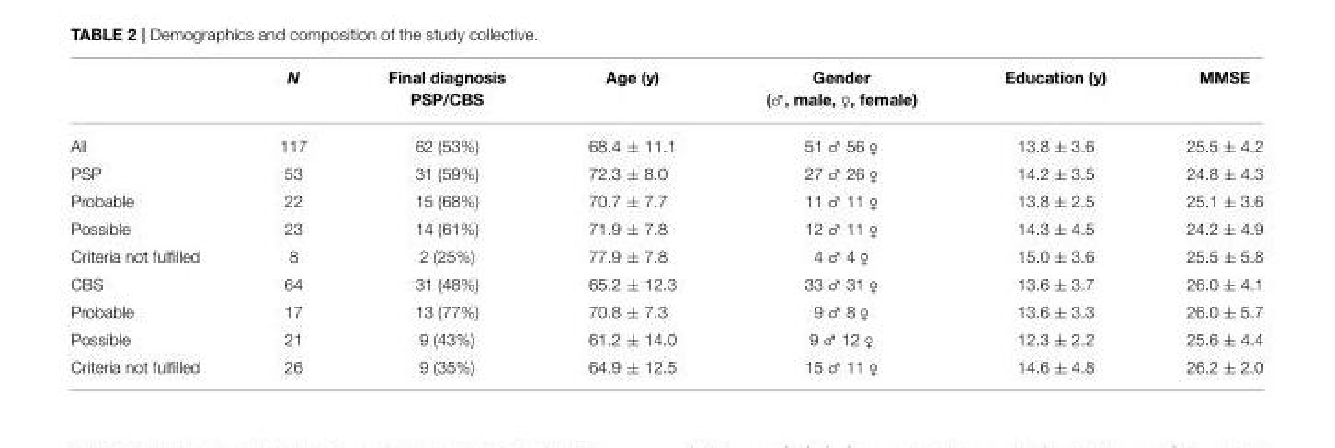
<table><thead><tr><td></td><td>N</td><td>Final diagnosis PSP/CBS</td><td>Age (y)</td><td>Gender (♂, male, ♀, female)</td><td>Education (y)</td><td>MMSE</td></tr></thead><tbody><tr><td>All</td><td>117</td><td>62 (53%)</td><td>68.4 ± 11.1</td><td>51 ♂ 56 ♀</td><td>13.8 ± 3.6</td><td>25.5 ± 4.2</td></tr><tr><td>PSP</td><td>53</td><td>31 (59%)</td><td>72.3 ± 8.0</td><td>27 ♂ 26 ♀</td><td>14.2 ± 3.5</td><td>24.8 ± 4.3</td></tr><tr><td>Probable</td><td>22</td><td>15 (68%)</td><td>70.7 ± 7.7</td><td>11 ♂ 11 ♀</td><td>13.8 ± 2.5</td><td>25.1 ± 3.6</td></tr><tr><td>Possible</td><td>23</td><td>14 (61%)</td><td>71.9 ± 7.8</td><td>12 ♂ 11 ♀</td><td>14.3 ± 4.5</td><td>24.2 ± 4.9</td></tr><tr><td>Criteria not fulfilled</td><td>8</td><td>2 (25%)</td><td>77.9 ± 7.8</td><td>4 ♂ 4 ♀</td><td>15.0 ± 3.6</td><td>25.5 ± 5.8</td></tr><tr><td>CBS</td><td>64</td><td>31 (48%)</td><td>65.2 ± 12.3</td><td>33 ♂ 31 ♀</td><td>13.6 ± 3.7</td><td>26.0 ± 4.1</td></tr><tr><td>Probable</td><td>17</td><td>13 (77%)</td><td>70.8 ± 7.3</td><td>9 ♂ 8 ♀</td><td>13.6 ± 3.3</td><td>26.0 ± 5.7</td></tr><tr><td>Possible</td><td>21</td><td>9 (43%)</td><td>61.2 ± 14.0</td><td>9 ♂ 12 ♀</td><td>12.3 ± 2.2</td><td>25.6 ± 4.4</td></tr><tr><td>Criteria not fulfilled</td><td>26</td><td>9 (35%)</td><td>64.9 ± 12.5</td><td>15 ♂ 11 ♀</td><td>14.6 ± 4.8</td><td>26.2 ± 2.0</td></tr></tbody></table>